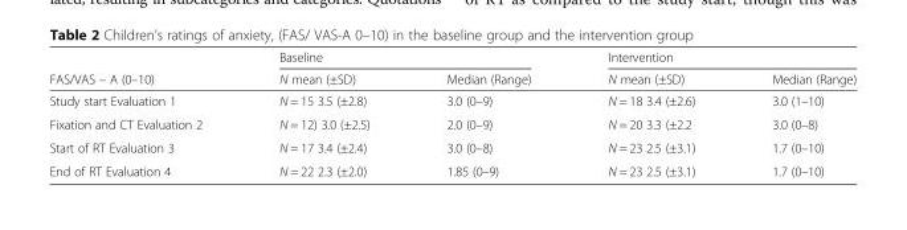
<table><thead><tr><td rowspan="2">FAS/VAS – A (0–10)</td><td colspan="2">Baseline</td><td colspan="2">Intervention</td></tr><tr><td>N mean (±SD)</td><td>Median (Range)</td><td>N mean (±SD)</td><td>Median (Range)</td></tr></thead><tbody><tr><td>Study start Evaluation 1</td><td>N = 15 3.5 (±2.8)</td><td>3.0 (0–9)</td><td>N = 18 3.4 (±2.6)</td><td>3.0 (1–10)</td></tr><tr><td>Fixation and CT Evaluation 2</td><td>N = 12) 3.0 (±2.5)</td><td>2.0 (0–9)</td><td>N = 20 3.3 (±2.2</td><td>3.0 (0–8)</td></tr><tr><td>Start of RT Evaluation 3</td><td>N = 17 3.4 (±2.4)</td><td>3.0 (0–8)</td><td>N = 23 2.5 (±3.1)</td><td>1.7 (0–10)</td></tr><tr><td>End of RT Evaluation 4</td><td>N = 22 2.3 (±2.0)</td><td>1.85 (0–9)</td><td>N = 23 2.5 (±3.1)</td><td>1.7 (0–10)</td></tr></tbody></table>